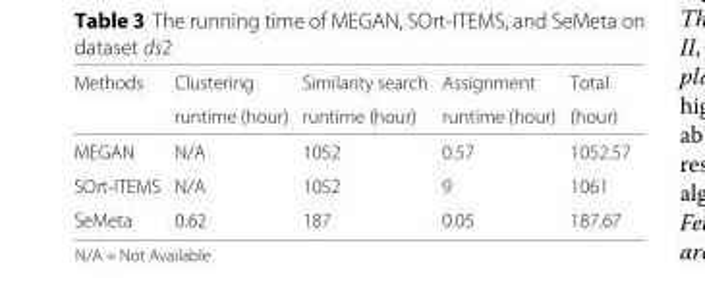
<table><thead><tr><td rowspan="2">Methods</td><td rowspan="2">Clustering runtime (hour)</td><td rowspan="2">Similarity search runtime (hour)</td><td rowspan="2">Assignment runtime (hour)</td><td rowspan="2">Total (hour)</td></tr><tr></tr></thead><tbody><tr><td>MEGAN</td><td>N/A</td><td>1052</td><td>0.57</td><td>1052.57</td></tr><tr><td>SOrt-ITEMS</td><td>N/A</td><td>1052</td><td>9</td><td>1061</td></tr><tr><td>SeMeta</td><td>0.62</td><td>187</td><td>0.05</td><td>187.67</td></tr></tbody></table>